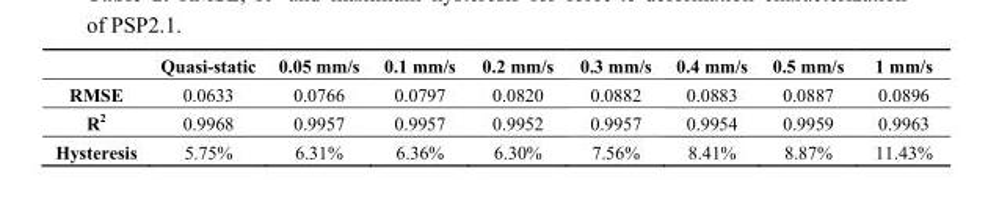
<table><thead><tr><td></td><td>Quasi-static</td><td>0.05 mm/s</td><td>0.1 mm/s</td><td>0.2 mm/s</td><td>0.3 mm/s</td><td>0.4 mm/s</td><td>0.5 mm/s</td><td>1 mm/s</td></tr></thead><tbody><tr><td>RMSE</td><td>0.0633</td><td>0.0766</td><td>0.0797</td><td>0.0820</td><td>0.0882</td><td>0.0883</td><td>0.0887</td><td>0.0896</td></tr><tr><td>R<sup>2</sup></td><td>0.9968</td><td>0.9957</td><td>0.9957</td><td>0.9952</td><td>0.9957</td><td>0.9954</td><td>0.9959</td><td>0.9963</td></tr><tr><td>Hysteresis</td><td>5.75%</td><td>6.31%</td><td>6.36%</td><td>6.30%</td><td>7.56%</td><td>8.41%</td><td>8.87%</td><td>11.43%</td></tr></tbody></table>